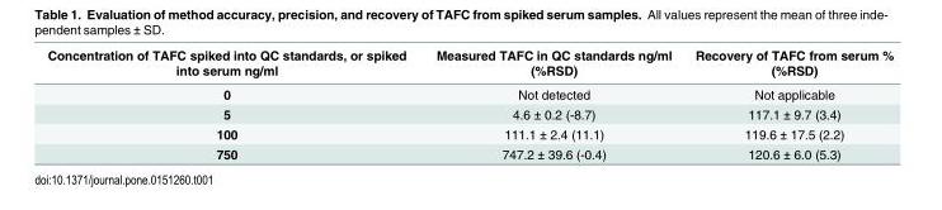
<table><thead><tr><td>Concentration of TAFC spiked into QC standards, or spiked into serum ng/ml</td><td>Measured TAFC in QC standards ng/ml (%RSD)</td><td>Recovery of TAFC from serum % (%RSD)</td></tr></thead><tbody><tr><td>0</td><td>Not detected</td><td>Not applicable</td></tr><tr><td>5</td><td>4.6 ± 0.2 (-8.7)</td><td>117.1 ± 9.7 (3.4)</td></tr><tr><td>100</td><td>111.1 ± 2.4 (11.1)</td><td>119.6 ± 17.5 (2.2)</td></tr><tr><td>750</td><td>747.2 ± 39.6 (-0.4)</td><td>120.6 ± 6.0 (5.3)</td></tr></tbody></table>